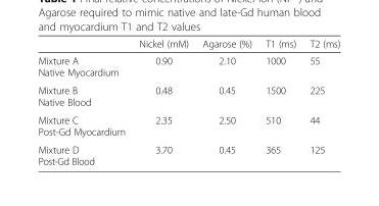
<table><thead><tr><td></td><td>Nickel (mM)</td><td>Agarose (%)</td><td>T1 (ms)</td><td>T2 (ms)</td></tr></thead><tbody><tr><td>Mixture A Native Myocardium</td><td>0.90</td><td>2.10</td><td>1000</td><td>55</td></tr><tr><td>Mixture B Native Blood</td><td>0.48</td><td>0.45</td><td>1500</td><td>225</td></tr><tr><td>Mixture C Post-Gd Myocardium</td><td>2.35</td><td>2.50</td><td>510</td><td>44</td></tr><tr><td>Mixture D Post-Gd Blood</td><td>3.70</td><td>0.45</td><td>365</td><td>125</td></tr></tbody></table>